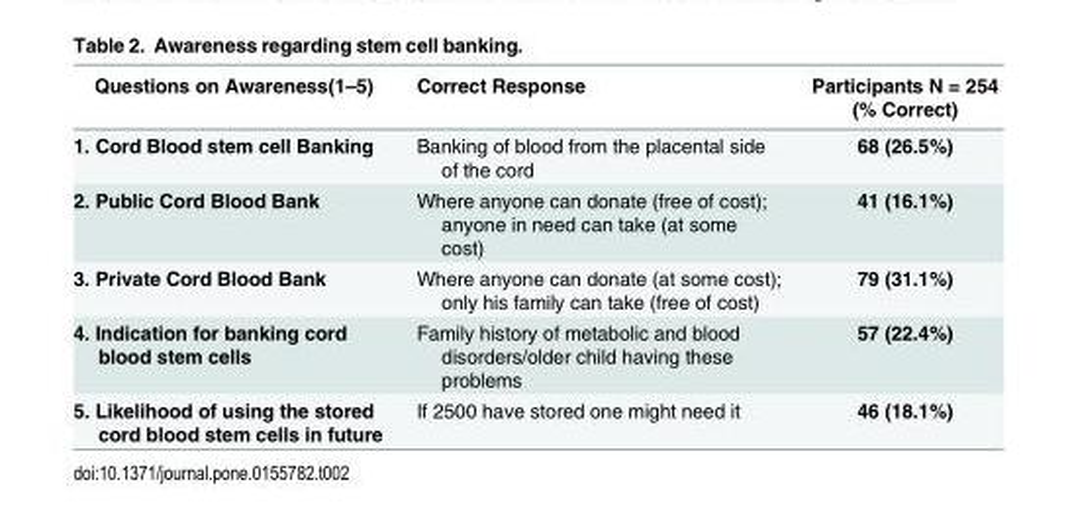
<table><thead><tr><td>Questions on Awareness(1–5)</td><td>Correct Response</td><td>Participants N = 254 (% Correct)</td></tr></thead><tbody><tr><td>1. Cord Blood stem cell Banking</td><td>Banking of blood from the placental side of the cord</td><td>68 (26.5%)</td></tr><tr><td>2. Public Cord Blood Bank</td><td>Where anyone can donate (free of cost); anyone in need can take (at some cost)</td><td>41 (16.1%)</td></tr><tr><td>3. Private Cord Blood Bank</td><td>Where anyone can donate (at some cost); only his family can take (free of cost)</td><td>79 (31.1%)</td></tr><tr><td>4. Indication for banking cord blood stem cells</td><td>Family history of metabolic and blood disorders/older child having these problems</td><td>57 (22.4%)</td></tr><tr><td>5. Likelihood of using the stored cord blood stem cells in future</td><td>If 2500 have stored one might need it</td><td>46 (18.1%)</td></tr></tbody></table>